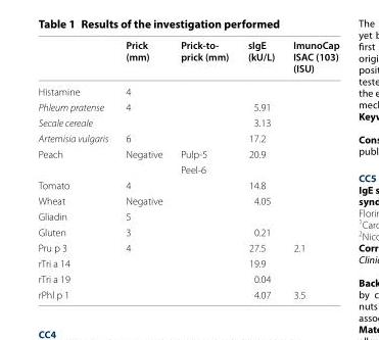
<table><thead><tr><td></td><td>Prick (mm)</td><td>Prick-to- prick (mm)</td><td>sIgE (kU/L)</td><td>ImunoCap ISAC (103) (ISU)</td></tr></thead><tbody><tr><td>Histamine</td><td>4</td><td></td><td></td><td></td></tr><tr><td>Phleum pratense</td><td>4</td><td></td><td>5.91</td><td></td></tr><tr><td>Secale cereale</td><td></td><td></td><td>3.13</td><td></td></tr><tr><td>Artemisia vulgaris</td><td>6</td><td></td><td>17.2</td><td></td></tr><tr><td rowspan="2">Peach</td><td>Negative</td><td>Pulp‑5</td><td>20.9</td><td></td></tr><tr><td></td><td>Peel‑6</td><td></td><td></td></tr><tr><td>Tomato</td><td>4</td><td></td><td>14.8</td><td></td></tr><tr><td>Wheat</td><td>Negative</td><td></td><td>4.05</td><td></td></tr><tr><td>Gliadin</td><td>5</td><td></td><td></td><td></td></tr><tr><td>Gluten</td><td>3</td><td></td><td>0.21</td><td></td></tr><tr><td>Pru p 3</td><td>4</td><td></td><td>27.5</td><td>2.1</td></tr><tr><td>rTri a 14</td><td></td><td></td><td>19.9</td><td></td></tr><tr><td>rTri a 19</td><td></td><td></td><td>0.04</td><td></td></tr><tr><td>rPhl p 1</td><td></td><td></td><td>4.07</td><td>3.5</td></tr></tbody></table>